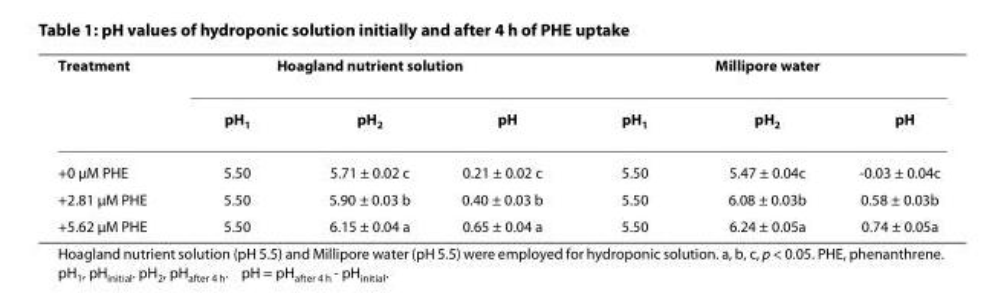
<table><thead><tr><td rowspan="2">Treatment</td><td colspan="3">Hoagland nutrient solution</td><td colspan="3">Millipore water</td></tr><tr><td>pH<sub>1</sub></td><td>pH<sub>2</sub></td><td>pH</td><td>pH<sub>1</sub></td><td>pH<sub>2</sub></td><td>pH</td></tr></thead><tbody><tr><td>+0 μM PHE</td><td>5.50</td><td>5.71 ± 0.02 c</td><td>0.21 ± 0.02 c</td><td>5.50</td><td>5.47 ± 0.04c</td><td>-0.03 ± 0.04c</td></tr><tr><td>+2.81 μM PHE</td><td>5.50</td><td>5.90 ± 0.03 b</td><td>0.40 ± 0.03 b</td><td>5.50</td><td>6.08 ± 0.03b</td><td>0.58 ± 0.03b</td></tr><tr><td>+5.62 μM PHE</td><td>5.50</td><td>6.15 ± 0.04 a</td><td>0.65 ± 0.04 a</td><td>5.50</td><td>6.24 ± 0.05a</td><td>0.74 ± 0.05a</td></tr></tbody></table>